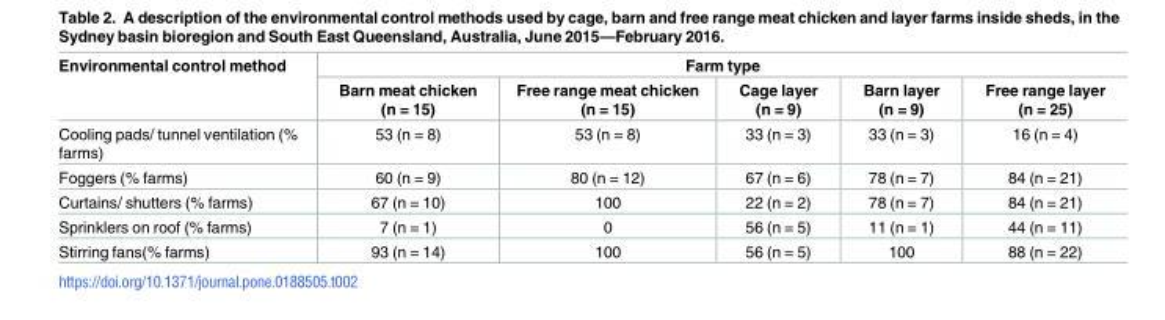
<table><thead><tr><td rowspan="2">Environmental control method</td><td colspan="5">Farm type</td></tr><tr><td>Barn meat chicken (n = 15)</td><td>Free range meat chicken (n = 15)</td><td>Cage layer (n = 9)</td><td>Barn layer (n = 9)</td><td>Free range layer (n = 25)</td></tr></thead><tbody><tr><td>Cooling pads/ tunnel ventilation (% farms)</td><td>53 (n = 8)</td><td>53 (n = 8)</td><td>33 (n = 3)</td><td>33 (n = 3)</td><td>16 (n = 4)</td></tr><tr><td>Foggers (% farms)</td><td>60 (n = 9)</td><td>80 (n = 12)</td><td>67 (n = 6)</td><td>78 (n = 7)</td><td>84 (n = 21)</td></tr><tr><td>Curtains/ shutters (% farms)</td><td>67 (n = 10)</td><td>100</td><td>22 (n = 2)</td><td>78 (n = 7)</td><td>84 (n = 21)</td></tr><tr><td>Sprinklers on roof (% farms)</td><td>7 (n = 1)</td><td>0</td><td>56 (n = 5)</td><td>11 (n = 1)</td><td>44 (n = 11)</td></tr><tr><td>Stirring fans(% farms)</td><td>93 (n = 14)</td><td>100</td><td>56 (n = 5)</td><td>100</td><td>88 (n = 22)</td></tr></tbody></table>